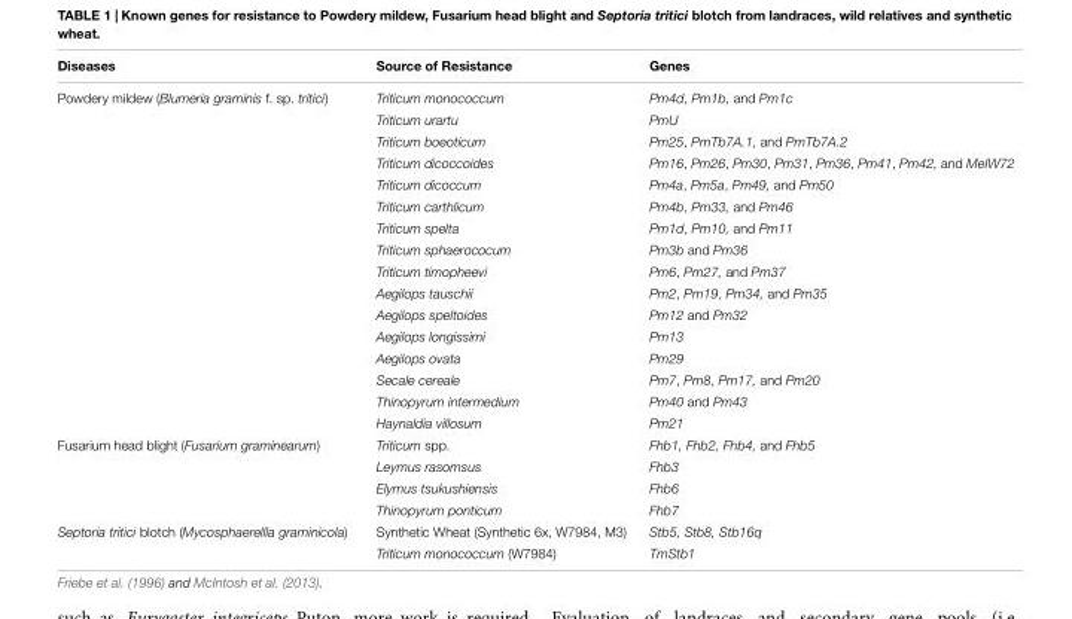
<table><thead><tr><td>Diseases</td><td>Source of Resistance</td><td>Genes</td></tr></thead><tbody><tr><td rowspan="16">Powdery mildew (Blumeria graminis f. sp. tritici)</td><td>Triticum monococcum</td><td>Pm4d, Pm1b, and Pm1c</td></tr><tr><td>Triticum urartu</td><td>PmU</td></tr><tr><td>Triticum boeoticum</td><td>Pm25, PmTb7A.1, and PmTb7A.2</td></tr><tr><td>Triticum dicoccoides</td><td>Pm16, Pm26, Pm30, Pm31, Pm36, Pm41, Pm42, and MeIW72</td></tr><tr><td>Triticum dicoccum</td><td>Pm4a, Pm5a, Pm49, and Pm50</td></tr><tr><td>Triticum carthlicum</td><td>Pm4b, Pm33, and Pm46</td></tr><tr><td>Triticum spelta</td><td>Pm1d, Pm10, and Pm11</td></tr><tr><td>Triticum sphaerococum</td><td>Pm3b and Pm36</td></tr><tr><td>Triticum timopheevi</td><td>Pm6, Pm27, and Pm37</td></tr><tr><td>Aegilops tauschii</td><td>Pm2, Pm19, Pm34, and Pm35</td></tr><tr><td>Aegilops speltoides</td><td>Pm12 and Pm32</td></tr><tr><td>Aegilops longissimi</td><td>Pm13</td></tr><tr><td>Aegilops ovata</td><td>Pm29</td></tr><tr><td>Secale cereale</td><td>Pm7, Pm8, Pm17, and Pm20</td></tr><tr><td>Thinopyrum intermedium</td><td>Pm40 and Pm43</td></tr><tr><td>Haynaldia villosum</td><td>Pm21</td></tr><tr><td rowspan="4">Fusarium head blight (Fusarium graminearum)</td><td>Triticum spp.</td><td>Fhb1, Fhb2, Fhb4, and Fhb5</td></tr><tr><td>Leymus rasomsus</td><td>Fhb3</td></tr><tr><td>Elymus tsukushiensis</td><td>Fhb6</td></tr><tr><td>Thinopyrum ponticum</td><td>Fhb7</td></tr><tr><td rowspan="2">Septoria tritici blotch (Mycosphaerellla graminicola)</td><td>Synthetic Wheat (Synthetic 6x, W7984, M3)</td><td>Stb5, Stb8, Stb16q</td></tr><tr><td>Triticum monococcum (W7984)</td><td>TmStb1</td></tr></tbody></table>